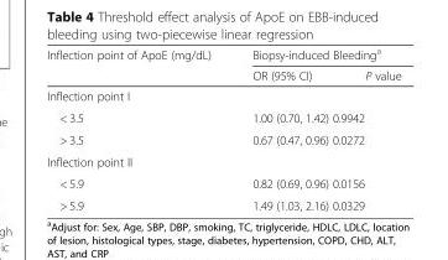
<table><thead><tr><td rowspan="2">Inflection point of ApoE (mg/dL)</td><td colspan="2">Biopsy-induced Bleeding<sup>a</sup></td></tr><tr><td>OR (95% CI)</td><td>P value</td></tr></thead><tbody><tr><td colspan="3">Inflection point I</td></tr><tr><td>&lt; 3.5</td><td colspan="2">1.00 (0.70, 1.42) 0.9942</td></tr><tr><td>&gt; 3.5</td><td colspan="2">0.67 (0.47, 0.96) 0.0272</td></tr><tr><td colspan="3">Inflection point II</td></tr><tr><td>&lt; 5.9</td><td colspan="2">0.82 (0.69, 0.96) 0.0156</td></tr><tr><td>&gt; 5.9</td><td colspan="2">1.49 (1.03, 2.16) 0.0329</td></tr></tbody></table>